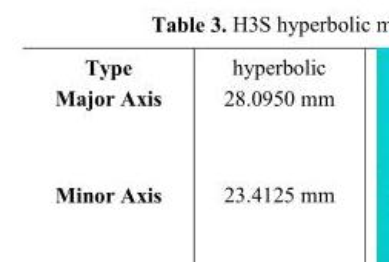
<table><tbody><tr><td>Type</td><td>hyperbolic</td></tr><tr><td>Major Axis</td><td>28.0950 mm</td></tr><tr><td>Minor Axis</td><td>23.4125 mm</td></tr></tbody></table>